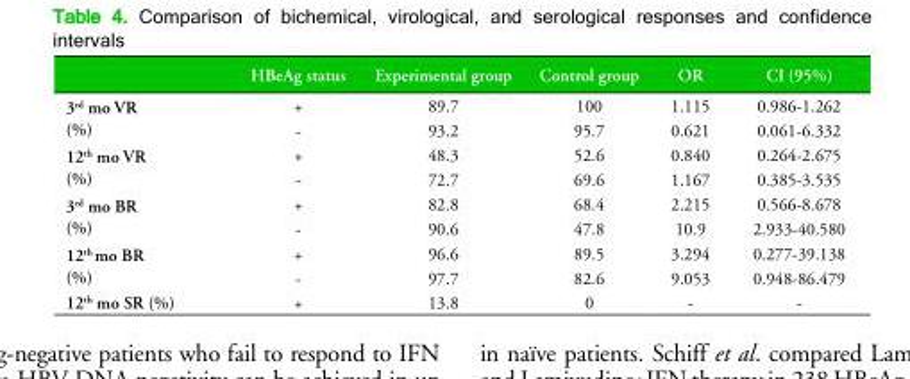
<table><thead><tr><td></td><td>HBeAg status</td><td>Experimental group</td><td>Control group</td><td>OR</td><td>CI (95%)</td></tr></thead><tbody><tr><td rowspan="2">3<sup>rd</sup> mo VR (%)</td><td>+</td><td>89.7</td><td>100</td><td>1.115</td><td>0.986-1.262</td></tr><tr><td>-</td><td>93.2</td><td>95.7</td><td>0.621</td><td>0.061-6.332</td></tr><tr><td rowspan="2">12<sup>th</sup> mo VR (%)</td><td>+</td><td>48.3</td><td>52.6</td><td>0.840</td><td>0.264-2.675</td></tr><tr><td>-</td><td>72.7</td><td>69.6</td><td>1.167</td><td>0.385-3.535</td></tr><tr><td rowspan="2">3<sup>rd</sup> mo BR (%)</td><td>+</td><td>82.8</td><td>68.4</td><td>2.215</td><td>0.566-8.678</td></tr><tr><td>-</td><td>90.6</td><td>47.8</td><td>10.9</td><td>2.933-40.580</td></tr><tr><td rowspan="2">12<sup>th</sup> mo BR (%)</td><td>+</td><td>96.6</td><td>89.5</td><td>3.294</td><td>0.277-39.138</td></tr><tr><td>-</td><td>97.7</td><td>82.6</td><td>9.053</td><td>0.948-86.479</td></tr><tr><td>12<sup>th</sup> mo SR (%)</td><td>+</td><td>13.8</td><td>0</td><td>-</td><td>-</td></tr></tbody></table>